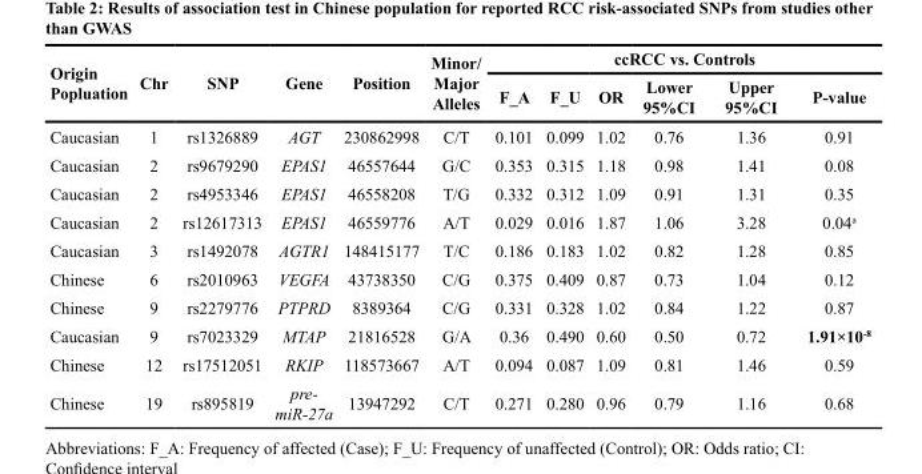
<table><thead><tr><td rowspan="2">Origin Popluation</td><td rowspan="2">Chr</td><td rowspan="2">SNP</td><td rowspan="2">Gene</td><td rowspan="2">Position</td><td rowspan="2">Minor/ Major Alleles</td><td colspan="6">ccRCC vs. Controls</td></tr><tr><td>F_A</td><td>F_U</td><td>OR</td><td>Lower 95%CI</td><td>Upper 95%CI</td><td>P-value</td></tr></thead><tbody><tr><td>Caucasian</td><td>1</td><td>rs1326889</td><td>AGT</td><td>230862998</td><td>C/T</td><td>0.101</td><td>0.099</td><td>1.02</td><td>0.76</td><td>1.36</td><td>0.91</td></tr><tr><td>Caucasian</td><td>2</td><td>rs9679290</td><td>EPAS1</td><td>46557644</td><td>G/C</td><td>0.353</td><td>0.315</td><td>1.18</td><td>0.98</td><td>1.41</td><td>0.08</td></tr><tr><td>Caucasian</td><td>2</td><td>rs4953346</td><td>EPAS1</td><td>46558208</td><td>T/G</td><td>0.332</td><td>0.312</td><td>1.09</td><td>0.91</td><td>1.31</td><td>0.35</td></tr><tr><td>Caucasian</td><td>2</td><td>rs12617313</td><td>EPAS1</td><td>46559776</td><td>A/T</td><td>0.029</td><td>0.016</td><td>1.87</td><td>1.06</td><td>3.28</td><td>0.04<sup>a</sup></td></tr><tr><td>Caucasian</td><td>3</td><td>rs1492078</td><td>AGTR1</td><td>148415177</td><td>T/C</td><td>0.186</td><td>0.183</td><td>1.02</td><td>0.82</td><td>1.28</td><td>0.85</td></tr><tr><td>Chinese</td><td>6</td><td>rs2010963</td><td>VEGFA</td><td>43738350</td><td>C/G</td><td>0.375</td><td>0.409</td><td>0.87</td><td>0.73</td><td>1.04</td><td>0.12</td></tr><tr><td>Chinese</td><td>9</td><td>rs2279776</td><td>PTPRD</td><td>8389364</td><td>C/G</td><td>0.331</td><td>0.328</td><td>1.02</td><td>0.84</td><td>1.22</td><td>0.87</td></tr><tr><td>Caucasian</td><td>9</td><td>rs7023329</td><td>MTAP</td><td>21816528</td><td>G/A</td><td>0.36</td><td>0.490</td><td>0.60</td><td>0.50</td><td>0.72</td><td>1.91×10<sup>-8</sup></td></tr><tr><td>Chinese</td><td>12</td><td>rs17512051</td><td>RKIP</td><td>118573667</td><td>A/T</td><td>0.094</td><td>0.087</td><td>1.09</td><td>0.81</td><td>1.46</td><td>0.59</td></tr><tr><td>Chinese</td><td>19</td><td>rs895819</td><td>pre- miR-27a</td><td>13947292</td><td>C/T</td><td>0.271</td><td>0.280</td><td>0.96</td><td>0.79</td><td>1.16</td><td>0.68</td></tr></tbody></table>